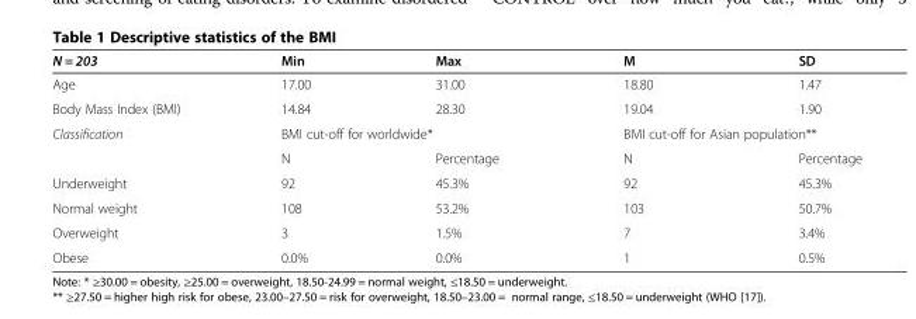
<table><thead><tr><td>N = 203</td><td>Min</td><td>Max</td><td>M</td><td>SD</td></tr></thead><tbody><tr><td>Age</td><td>17.00</td><td>31.00</td><td>18.80</td><td>1.47</td></tr><tr><td>Body Mass Index (BMI)</td><td>14.84</td><td>28.30</td><td>19.04</td><td>1.90</td></tr><tr><td rowspan="2">Classification</td><td colspan="2">BMI cut-off for worldwide*</td><td colspan="2">BMI cut-off for Asian population**</td></tr><tr><td>N</td><td>Percentage</td><td>N</td><td>Percentage</td></tr><tr><td>Underweight</td><td>92</td><td>45.3%</td><td>92</td><td>45.3%</td></tr><tr><td>Normal weight</td><td>108</td><td>53.2%</td><td>103</td><td>50.7%</td></tr><tr><td>Overweight</td><td>3</td><td>1.5%</td><td>7</td><td>3.4%</td></tr><tr><td>Obese</td><td>0.0%</td><td>0.0%</td><td>1</td><td>0.5%</td></tr></tbody></table>